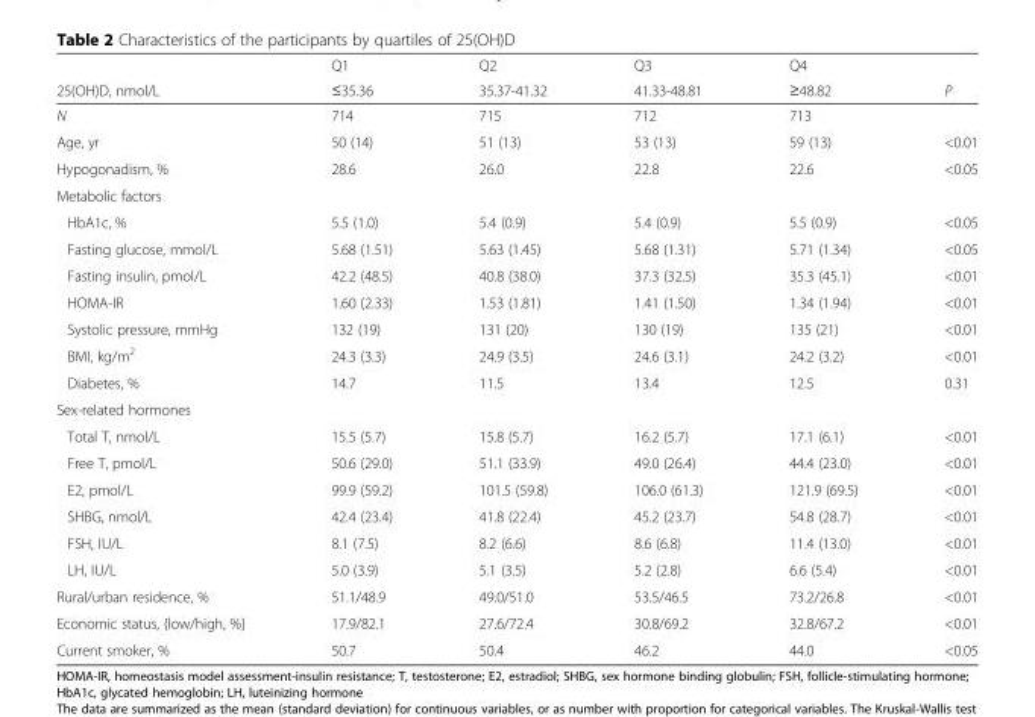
<table><thead><tr><td rowspan="2">25(OH)D, nmol/L</td><td rowspan="2">Q1 ≤35.36</td><td rowspan="2">Q2 35.37-41.32</td><td rowspan="2">Q3 41.33-48.81</td><td rowspan="2">Q4 ≥48.82</td><td rowspan="2">P</td></tr><tr></tr></thead><tbody><tr><td>N</td><td>714</td><td>715</td><td>712</td><td>713</td><td></td></tr><tr><td>Age, yr</td><td>50 (14)</td><td>51 (13)</td><td>53 (13)</td><td>59 (13)</td><td>&lt;0.01</td></tr><tr><td>Hypogonadism, %</td><td>28.6</td><td>26.0</td><td>22.8</td><td>22.6</td><td>&lt;0.05</td></tr><tr><td colspan="6">Metabolic factors</td></tr><tr><td>HbA1c, %</td><td>5.5 (1.0)</td><td>5.4 (0.9)</td><td>5.4 (0.9)</td><td>5.5 (0.9)</td><td>&lt;0.05</td></tr><tr><td>Fasting glucose, mmol/L</td><td>5.68 (1.51)</td><td>5.63 (1.45)</td><td>5.68 (1.31)</td><td>5.71 (1.34)</td><td>&lt;0.05</td></tr><tr><td>Fasting insulin, pmol/L</td><td>42.2 (48.5)</td><td>40.8 (38.0)</td><td>37.3 (32.5)</td><td>35.3 (45.1)</td><td>&lt;0.01</td></tr><tr><td>HOMA-IR</td><td>1.60 (2.33)</td><td>1.53 (1.81)</td><td>1.41 (1.50)</td><td>1.34 (1.94)</td><td>&lt;0.01</td></tr><tr><td>Systolic pressure, mmHg</td><td>132 (19)</td><td>131 (20)</td><td>130 (19)</td><td>135 (21)</td><td>&lt;0.01</td></tr><tr><td>BMI, kg/m<sup>2</sup></td><td>24.3 (3.3)</td><td>24.9 (3.5)</td><td>24.6 (3.1)</td><td>24.2 (3.2)</td><td>&lt;0.01</td></tr><tr><td>Diabetes, %</td><td>14.7</td><td>11.5</td><td>13.4</td><td>12.5</td><td>0.31</td></tr><tr><td colspan="6">Sex-related hormones</td></tr><tr><td>Total T, nmol/L</td><td>15.5 (5.7)</td><td>15.8 (5.7)</td><td>16.2 (5.7)</td><td>17.1 (6.1)</td><td>&lt;0.01</td></tr><tr><td>Free T, pmol/L</td><td>50.6 (29.0)</td><td>51.1 (33.9)</td><td>49.0 (26.4)</td><td>44.4 (23.0)</td><td>&lt;0.01</td></tr><tr><td>E2, pmol/L</td><td>99.9 (59.2)</td><td>101.5 (59.8)</td><td>106.0 (61.3)</td><td>121.9 (69.5)</td><td>&lt;0.01</td></tr><tr><td>SHBG, nmol/L</td><td>42.4 (23.4)</td><td>41.8 (22.4)</td><td>45.2 (23.7)</td><td>54.8 (28.7)</td><td>&lt;0.01</td></tr><tr><td>FSH, IU/L</td><td>8.1 (7.5)</td><td>8.2 (6.6)</td><td>8.6 (6.8)</td><td>11.4 (13.0)</td><td>&lt;0.01</td></tr><tr><td>LH, IU/L</td><td>5.0 (3.9)</td><td>5.1 (3.5)</td><td>5.2 (2.8)</td><td>6.6 (5.4)</td><td>&lt;0.01</td></tr><tr><td>Rural/urban residence, %</td><td>51.1/48.9</td><td>49.0/51.0</td><td>53.5/46.5</td><td>73.2/26.8</td><td>&lt;0.01</td></tr><tr><td>Economic status, {low/high, %}</td><td>17.9/82.1</td><td>27.6/72.4</td><td>30.8/69.2</td><td>32.8/67.2</td><td>&lt;0.01</td></tr><tr><td>Current smoker, %</td><td>50.7</td><td>50.4</td><td>46.2</td><td>44.0</td><td>&lt;0.05</td></tr></tbody></table>